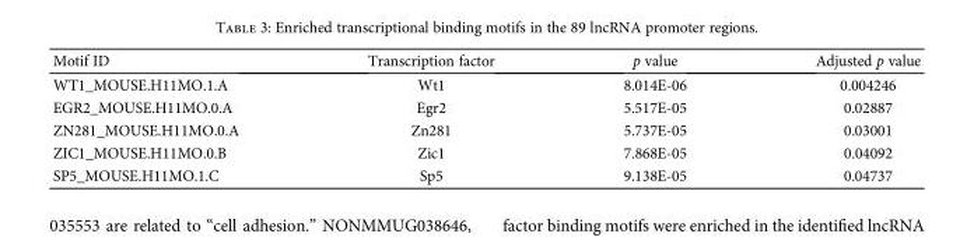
<table><thead><tr><td>Motif ID</td><td>Transcription factor</td><td>p value</td><td>Adjusted p value</td></tr></thead><tbody><tr><td>WT1_MOUSE.H11MO.1.A</td><td>Wt1</td><td>8.014E-06</td><td>0.004246</td></tr><tr><td>EGR2_MOUSE.H11MO.0.A</td><td>Egr2</td><td>5.517E-05</td><td>0.02887</td></tr><tr><td>ZN281_MOUSE.H11MO.0.A</td><td>Zn281</td><td>5.737E-05</td><td>0.03001</td></tr><tr><td>ZIC1_MOUSE.H11MO.0.B</td><td>Zic1</td><td>7.868E-05</td><td>0.04092</td></tr><tr><td>SP5_MOUSE.H11MO.1.C</td><td>Sp5</td><td>9.138E-05</td><td>0.04737</td></tr></tbody></table>